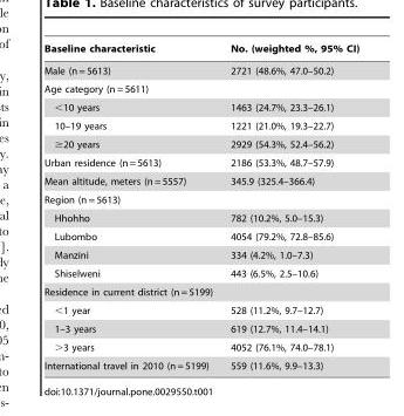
<table><thead><tr><td>Baseline characteristic</td><td>No. (weighted %, 95% CI)</td></tr></thead><tbody><tr><td>Male (n = 5613)</td><td>2721 (48.6%, 47.0–50.2)</td></tr><tr><td colspan="2">Age category (n = 5611)</td></tr><tr><td>&lt;10 years</td><td>1463 (24.7%, 23.3–26.1)</td></tr><tr><td>10–19 years</td><td>1221 (21.0%, 19.3–22.7)</td></tr><tr><td>≥20 years</td><td>2929 (54.3%, 52.4–56.2)</td></tr><tr><td>Urban residence (n = 5613)</td><td>2186 (53.3%, 48.7–57.9)</td></tr><tr><td>Mean altitude, meters (n = 5557)</td><td>345.9 (325.4–366.4)</td></tr><tr><td colspan="2">Region (n = 5613)</td></tr><tr><td>Hhohho</td><td>782 (10.2%, 5.0–15.3)</td></tr><tr><td>Lubombo</td><td>4054 (79.2%, 72.8–85.6)</td></tr><tr><td>Manzini</td><td>334 (4.2%, 1.0–7.3)</td></tr><tr><td>Shiselweni</td><td>443 (6.5%, 2.5–10.6)</td></tr><tr><td colspan="2">Residence in current district (n = 5199)</td></tr><tr><td>&lt;1 year</td><td>528 (11.2%, 9.7–12.7)</td></tr><tr><td>1–3 years</td><td>619 (12.7%, 11.4–14.1)</td></tr><tr><td>&gt;3 years</td><td>4052 (76.1%, 74.0–78.1)</td></tr><tr><td>International travel in 2010 (n = 5199)</td><td>559 (11.6%, 9.9–13.3)</td></tr></tbody></table>